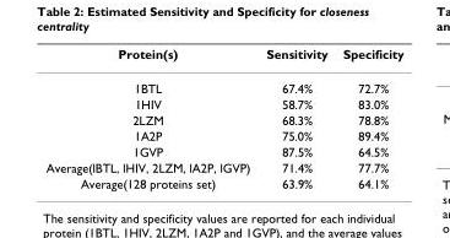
<table><thead><tr><td>Protein(s)</td><td>Sensitivity</td><td>Specificity</td></tr></thead><tbody><tr><td>1BTL</td><td>67.4%</td><td>72.7%</td></tr><tr><td>1HIV</td><td>58.7%</td><td>83.0%</td></tr><tr><td>2LZM</td><td>68.3%</td><td>78.8%</td></tr><tr><td>1A2P</td><td>75.0%</td><td>89.4%</td></tr><tr><td>1GVP</td><td>87.5%</td><td>64.5%</td></tr><tr><td>Average(lBTL, lHIV, 2LZM, lA2P, lGVP)</td><td>71.4%</td><td>77.7%</td></tr><tr><td>Average(128 proteins set)</td><td>63.9%</td><td>64.1%</td></tr></tbody></table>